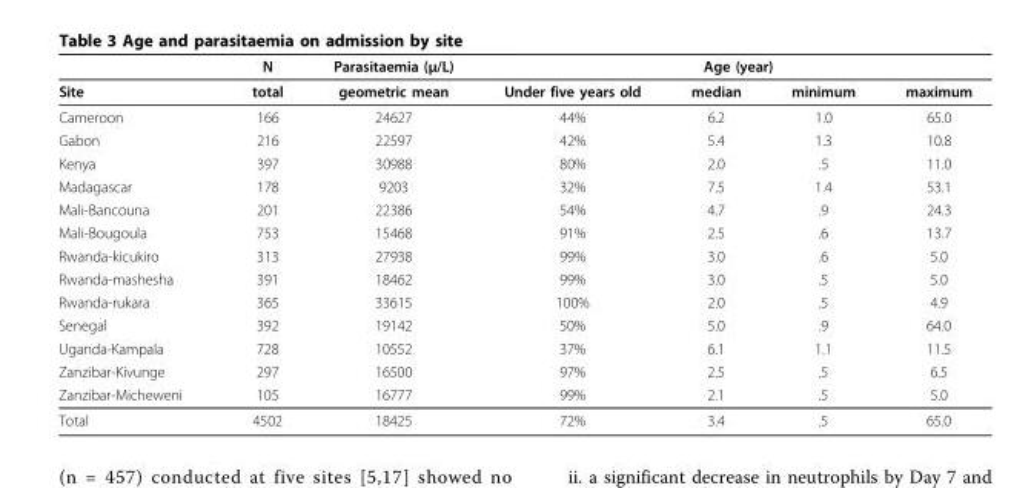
<table><thead><tr><td rowspan="2">Site</td><td rowspan="2">N total</td><td rowspan="2">Parasitaemia (μ/L) geometric mean</td><td colspan="4">Age (year)</td></tr><tr><td>Under five years old</td><td>median</td><td>minimum</td><td>maximum</td></tr></thead><tbody><tr><td>Cameroon</td><td>166</td><td>24627</td><td>44%</td><td>6.2</td><td>1.0</td><td>65.0</td></tr><tr><td>Gabon</td><td>216</td><td>22597</td><td>42%</td><td>5.4</td><td>1.3</td><td>10.8</td></tr><tr><td>Kenya</td><td>397</td><td>30988</td><td>80%</td><td>2.0</td><td>.5</td><td>11.0</td></tr><tr><td>Madagascar</td><td>178</td><td>9203</td><td>32%</td><td>7.5</td><td>1.4</td><td>53.1</td></tr><tr><td>Mali-Bancouna</td><td>201</td><td>22386</td><td>54%</td><td>4.7</td><td>.9</td><td>24.3</td></tr><tr><td>Mali-Bougoula</td><td>753</td><td>15468</td><td>91%</td><td>2.5</td><td>.6</td><td>13.7</td></tr><tr><td>Rwanda-kicukiro</td><td>313</td><td>27938</td><td>99%</td><td>3.0</td><td>.6</td><td>5.0</td></tr><tr><td>Rwanda-mashesha</td><td>391</td><td>18462</td><td>99%</td><td>3.0</td><td>.5</td><td>5.0</td></tr><tr><td>Rwanda-rukara</td><td>365</td><td>33615</td><td>100%</td><td>2.0</td><td>.5</td><td>4.9</td></tr><tr><td>Senegal</td><td>392</td><td>19142</td><td>50%</td><td>5.0</td><td>.9</td><td>64.0</td></tr><tr><td>Uganda-Kampala</td><td>728</td><td>10552</td><td>37%</td><td>6.1</td><td>1.1</td><td>11.5</td></tr><tr><td>Zanzibar-Kivunge</td><td>297</td><td>16500</td><td>97%</td><td>2.5</td><td>.5</td><td>6.5</td></tr><tr><td>Zanzibar-Micheweni</td><td>105</td><td>16777</td><td>99%</td><td>2.1</td><td>.5</td><td>5.0</td></tr><tr><td>Total</td><td>4502</td><td>18425</td><td>72%</td><td>3.4</td><td>.5</td><td>65.0</td></tr></tbody></table>